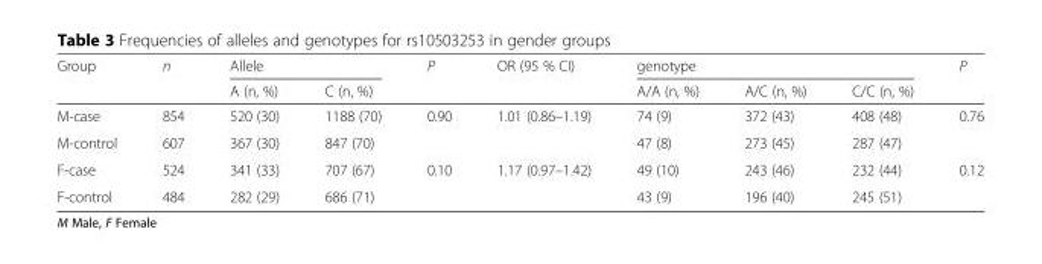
<table><thead><tr><td rowspan="2">Group</td><td rowspan="2">n</td><td colspan="2">Allele</td><td rowspan="2">P</td><td rowspan="2">OR (95 % CI)</td><td colspan="3">genotype</td><td rowspan="2">P</td></tr><tr><td>A (n, %)</td><td>C (n, %)</td><td>A/A (n, %)</td><td>A/C (n, %)</td><td>C/C (n, %)</td></tr></thead><tbody><tr><td>M-case</td><td>854</td><td>520 (30)</td><td>1188 (70)</td><td rowspan="2">0.90</td><td rowspan="2">1.01 (0.86–1.19)</td><td>74 (9)</td><td>372 (43)</td><td>408 (48)</td><td rowspan="2">0.76</td></tr><tr><td>M-control</td><td>607</td><td>367 (30)</td><td>847 (70)</td><td>47 (8)</td><td>273 (45)</td><td>287 (47)</td></tr><tr><td>F-case</td><td>524</td><td>341 (33)</td><td>707 (67)</td><td rowspan="2">0.10</td><td rowspan="2">1.17 (0.97–1.42)</td><td>49 (10)</td><td>243 (46)</td><td>232 (44)</td><td rowspan="2">0.12</td></tr><tr><td>F-control</td><td>484</td><td>282 (29)</td><td>686 (71)</td><td>43 (9)</td><td>196 (40)</td><td>245 (51)</td></tr></tbody></table>